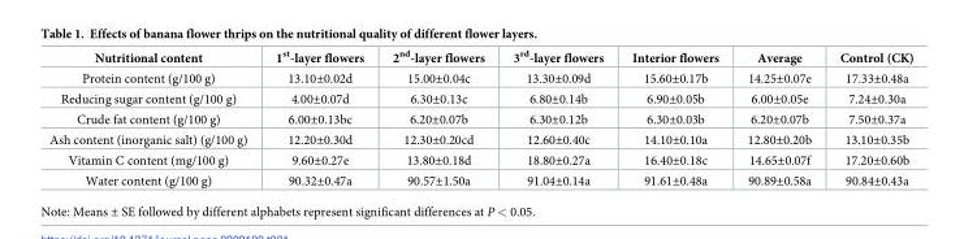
<table><thead><tr><td>Nutritional content</td><td>1<sup>st</sup>-layer flowers</td><td>2<sup>nd</sup>-layer flowers</td><td>3<sup>rd</sup>-layer flowers</td><td>Interior flowers</td><td>Average</td><td>Control (CK)</td></tr></thead><tbody><tr><td>Protein content (g/100 g)</td><td>13.10±0.02d</td><td>15.00±0.04c</td><td>13.30±0.09d</td><td>15.60±0.17b</td><td>14.25±0.07e</td><td>17.33±0.48a</td></tr><tr><td>Reducing sugar content (g/100 g)</td><td>4.00±0.07d</td><td>6.30±0.13c</td><td>6.80±0.14b</td><td>6.90±0.05b</td><td>6.00±0.05e</td><td>7.24±0.30a</td></tr><tr><td>Crude fat content (g/100 g)</td><td>6.00±0.13bc</td><td>6.20±0.07b</td><td>6.30±0.12b</td><td>6.30±0.03b</td><td>6.20±0.07b</td><td>7.50±0.37a</td></tr><tr><td>Ash content (inorganic salt) (g/100 g)</td><td>12.20±0.30d</td><td>12.30±0.20cd</td><td>12.60±0.40c</td><td>14.10±0.10a</td><td>12.80±0.20b</td><td>13.10±0.35b</td></tr><tr><td>Vitamin C content (mg/100 g)</td><td>9.60±0.27e</td><td>13.80±0.18d</td><td>18.80±0.27a</td><td>16.40±0.18c</td><td>14.65±0.07f</td><td>17.20±0.60b</td></tr><tr><td>Water content (g/100 g)</td><td>90.32±0.47a</td><td>90.57±1.50a</td><td>91.04±0.14a</td><td>91.61±0.48a</td><td>90.89±0.58a</td><td>90.84±0.43a</td></tr></tbody></table>